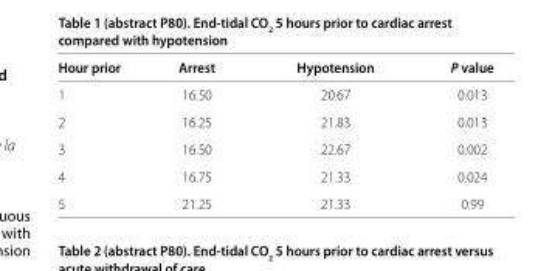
<table><thead><tr><td>Hour prior</td><td>Arrest</td><td>Hypotension</td><td>P value</td></tr></thead><tbody><tr><td>1</td><td>16.50</td><td>20.67</td><td>0.013</td></tr><tr><td>2</td><td>16.25</td><td>21.83</td><td>0.013</td></tr><tr><td>3</td><td>16.50</td><td>22.67</td><td>0.002</td></tr><tr><td>4</td><td>16.75</td><td>21.33</td><td>0.024</td></tr><tr><td>5</td><td>21.25</td><td>21.33</td><td>0.99</td></tr></tbody></table>